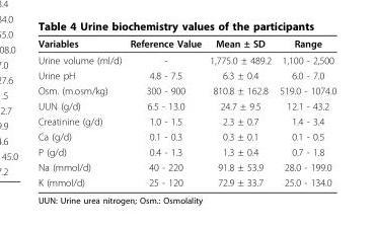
<table><thead><tr><td>Variables</td><td>Reference Value</td><td>Mean ± SD</td><td>Range</td></tr></thead><tbody><tr><td>Urine volume (ml/d)</td><td>-</td><td>1,775.0 ± 489.2</td><td>1,100 - 2,500</td></tr><tr><td>Urine pH</td><td>4.8 - 7.5</td><td>6.3 ± 0.4</td><td>6.0 - 7.0</td></tr><tr><td>Osm. (m.osm/kg)</td><td>300 - 900</td><td>810.8 ± 162.8</td><td>519.0 - 1074.0</td></tr><tr><td>UUN (g/d)</td><td>6.5 - 13.0</td><td>24.7 ± 9.5</td><td>12.1 - 43.2</td></tr><tr><td>Creatinine (g/d)</td><td>1.0 - 1.5</td><td>2.3 ± 0.7</td><td>1.4 - 3.4</td></tr><tr><td>Ca (g/d)</td><td>0.1 - 0.3</td><td>0.3 ± 0.1</td><td>0.1 - 0.5</td></tr><tr><td>P (g/d)</td><td>0.4 - 1.3</td><td>1.3 ± 0.4</td><td>0.7 - 1.8</td></tr><tr><td>Na (mmol/d)</td><td>40 - 220</td><td>91.8 ± 53.9</td><td>28.0 - 199.0</td></tr><tr><td>K (mmol/d)</td><td>25 - 120</td><td>72.9 ± 33.7</td><td>25.0 - 134.0</td></tr></tbody></table>